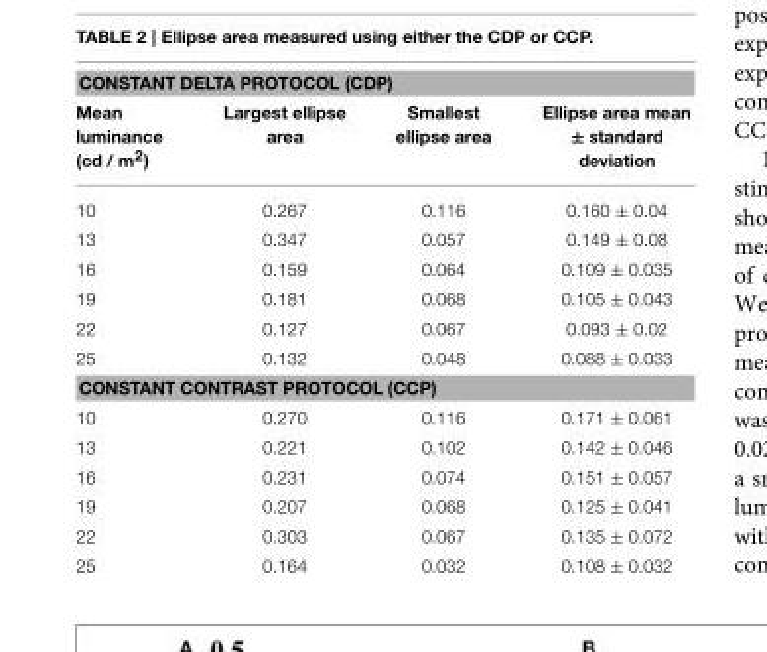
<table><thead><tr><td colspan="4">CONSTANT DELTA PROTOCOL (CDP)</td></tr><tr><td>Mean luminance (cd / m<sup>2</sup>)</td><td>Largest ellipse area</td><td>Smallest ellipse area</td><td>Ellipse area mean ± standard deviation</td></tr></thead><tbody><tr><td>10</td><td>0.267</td><td>0.116</td><td>0.160 ± 0.04</td></tr><tr><td>13</td><td>0.347</td><td>0.057</td><td>0.149 ± 0.08</td></tr><tr><td>16</td><td>0.159</td><td>0.064</td><td>0.109 ± 0.035</td></tr><tr><td>19</td><td>0.181</td><td>0.068</td><td>0.105 ± 0.043</td></tr><tr><td>22</td><td>0.127</td><td>0.067</td><td>0.093 ± 0.02</td></tr><tr><td>25</td><td>0.132</td><td>0.048</td><td>0.088 ± 0.033</td></tr><tr><td colspan="4">CONSTANT CONTRAST PROTOCOL (CCP)</td></tr><tr><td>10</td><td>0.270</td><td>0.116</td><td>0.171 ± 0.061</td></tr><tr><td>13</td><td>0.221</td><td>0.102</td><td>0.142 ± 0.046</td></tr><tr><td>16</td><td>0.231</td><td>0.074</td><td>0.151 ± 0.057</td></tr><tr><td>19</td><td>0.207</td><td>0.068</td><td>0.125 ± 0.041</td></tr><tr><td>22</td><td>0.303</td><td>0.067</td><td>0.135 ± 0.072</td></tr><tr><td>25</td><td>0.164</td><td>0.032</td><td>0.108 ± 0.032</td></tr></tbody></table>